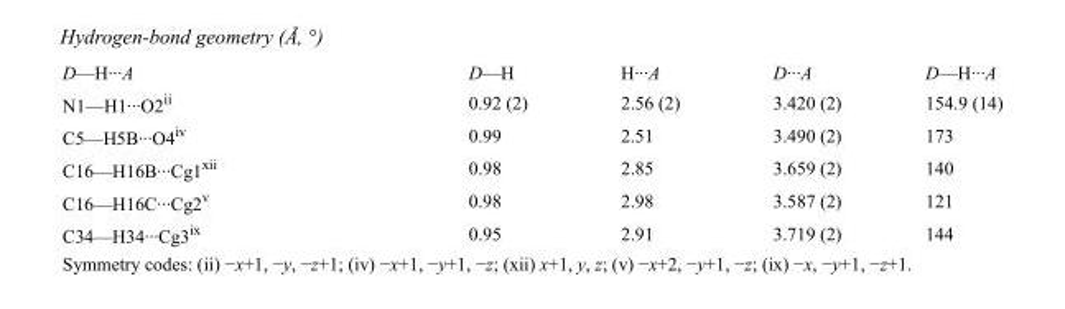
<table><tbody><tr><td>D—H···A</td><td>D—H</td><td>H···A</td><td>D···A</td><td>D—H···A</td></tr><tr><td>N1—H1···O2<sup>ii</sup></td><td>0.92 (2)</td><td>2.56 (2)</td><td>3.420 (2)</td><td>154.9 (14)</td></tr><tr><td>C5—H5B···O4<sup>iv</sup></td><td>0.99</td><td>2.51</td><td>3.490 (2)</td><td>173</td></tr><tr><td>C16—H16B···Cg1<sup>xii</sup></td><td>0.98</td><td>2.85</td><td>3.659 (2)</td><td>140</td></tr><tr><td>C16—H16C···Cg2<sup>v</sup></td><td>0.98</td><td>2.98</td><td>3.587 (2)</td><td>121</td></tr><tr><td>C34—H34···Cg3<sup>ix</sup></td><td>0.95</td><td>2.91</td><td>3.719 (2)</td><td>144</td></tr></tbody></table>